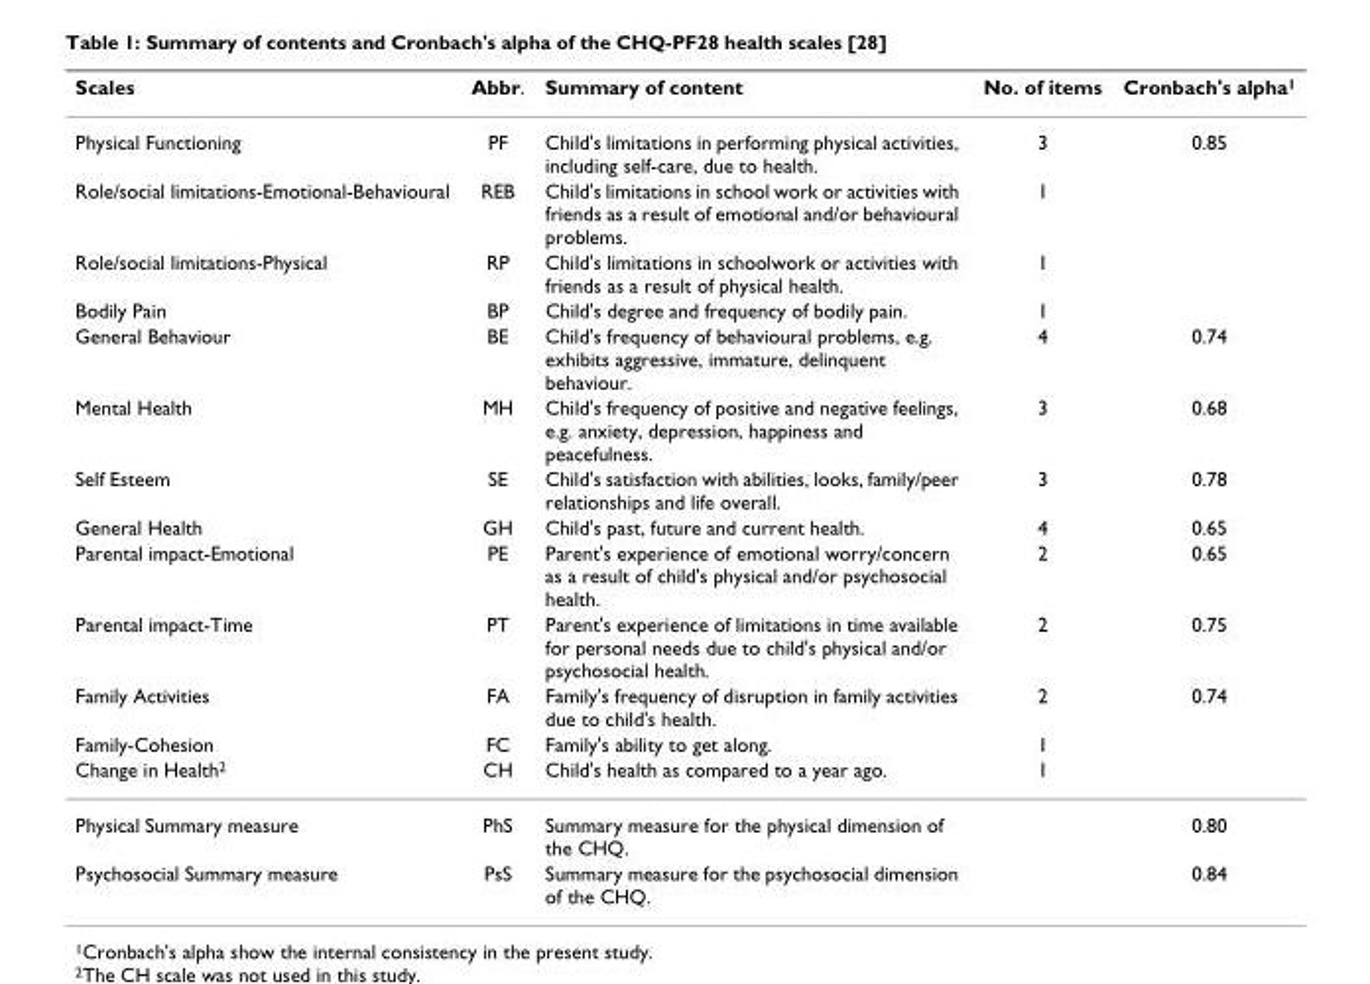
<table><thead><tr><td>Scales</td><td>Abbr.</td><td>Summary of content</td><td>No. of items</td><td>Cronbach&#x27;s alpha<sup>1</sup></td></tr></thead><tbody><tr><td>Physical Functioning</td><td>PF</td><td>Child&#x27;s limitations in performing physical activities, including self-care, due to health.</td><td>3</td><td>0.85</td></tr><tr><td>Role/social limitations-Emotional-Behavioural</td><td>REB</td><td>Child&#x27;s limitations in school work or activities with friends as a result of emotional and/or behavioural problems.</td><td>1</td><td></td></tr><tr><td>Role/social limitations-Physical</td><td>RP</td><td>Child&#x27;s limitations in schoolwork or activities with friends as a result of physical health.</td><td>1</td><td></td></tr><tr><td>Bodily Pain</td><td>BP</td><td>Child&#x27;s degree and frequency of bodily pain.</td><td>1</td><td></td></tr><tr><td>General Behaviour</td><td>BE</td><td>Child&#x27;s frequency of behavioural problems, e.g. exhibits aggressive, immature, delinquent behaviour.</td><td>4</td><td>0.74</td></tr><tr><td>Mental Health</td><td>MH</td><td>Child&#x27;s frequency of positive and negative feelings, e.g. anxiety, depression, happiness and peacefulness.</td><td>3</td><td>0.68</td></tr><tr><td>Self Esteem</td><td>SE</td><td>Child&#x27;s satisfaction with abilities, looks, family/peer relationships and life overall.</td><td>3</td><td>0.78</td></tr><tr><td>General Health</td><td>GH</td><td>Child&#x27;s past, future and current health.</td><td>4</td><td>0.65</td></tr><tr><td>Parental impact-Emotional</td><td>PE</td><td>Parent&#x27;s experience of emotional worry/concern as a result of child&#x27;s physical and/or psychosocial health.</td><td>2</td><td>0.65</td></tr><tr><td>Parental impact-Time</td><td>PT</td><td>Parent&#x27;s experience of limitations in time available for personal needs due to child&#x27;s physical and/or psychosocial health.</td><td>2</td><td>0.75</td></tr><tr><td>Family Activities</td><td>FA</td><td>Family&#x27;s frequency of disruption in family activities due to child&#x27;s health.</td><td>2</td><td>0.74</td></tr><tr><td>Family-Cohesion</td><td>FC</td><td>Family&#x27;s ability to get along.</td><td>1</td><td></td></tr><tr><td>Change in Health<sup>2</sup></td><td>CH</td><td>Child&#x27;s health as compared to a year ago.</td><td>1</td><td></td></tr><tr><td>Physical Summary measure</td><td>PhS</td><td>Summary measure for the physical dimension of the CHQ.</td><td></td><td>0.80</td></tr><tr><td>Psychosocial Summary measure</td><td>PsS</td><td>Summary measure for the psychosocial dimension of the CHQ.</td><td></td><td>0.84</td></tr></tbody></table>